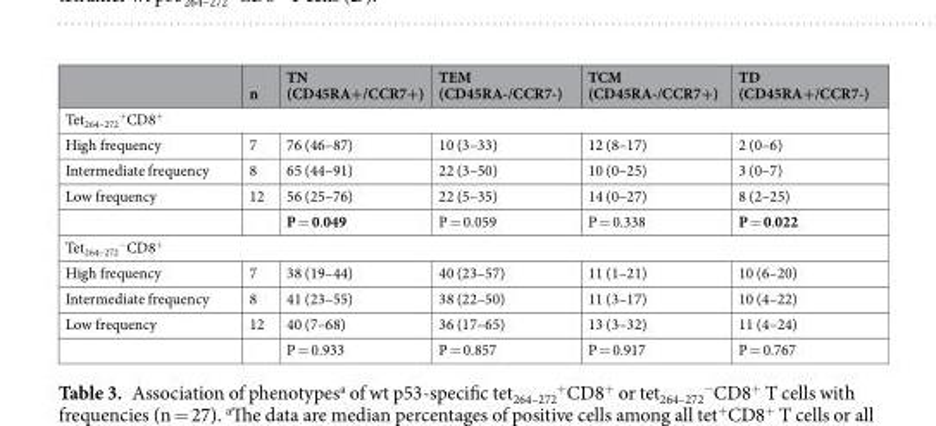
<table><thead><tr><td></td><td>n</td><td>TN (CD45RA+/CCR7+)</td><td>TEM (CD45RA-/CCR7-)</td><td>TCM (CD45RA-/CCR7+)</td><td>TD (CD45RA+/CCR7-)</td></tr></thead><tbody><tr><td colspan="6">Tet<sub>264–272</sub> <sup>+</sup>CD8<sup>+</sup></td></tr><tr><td>High frequency</td><td>7</td><td>76 (46–87)</td><td>10 (3–33)</td><td>12 (8–17)</td><td>2 (0–6)</td></tr><tr><td>Intermediate frequency</td><td>8</td><td>65 (44–91)</td><td>22 (3–50)</td><td>10 (0–25)</td><td>3 (0–7)</td></tr><tr><td rowspan="2">Low frequency</td><td>12</td><td>56 (25–76)</td><td>22 (5–35)</td><td>14 (0–27)</td><td>8 (2–25)</td></tr><tr><td></td><td>P = 0.049</td><td>P = 0.059</td><td>P = 0.338</td><td>P = 0.022</td></tr><tr><td colspan="6">Tet<sub>264–272</sub> <sup>−</sup>CD8<sup>+</sup></td></tr><tr><td>High frequency</td><td>7</td><td>38 (19–44)</td><td>40 (23–57)</td><td>11 (1–21)</td><td>10 (6–20)</td></tr><tr><td>Intermediate frequency</td><td>8</td><td>41 (23–55)</td><td>38 (22–50)</td><td>11 (3–17)</td><td>10 (4–22)</td></tr><tr><td rowspan="2">Low frequency</td><td>12</td><td>40 (7–68)</td><td>36 (17–65)</td><td>13 (3–32)</td><td>11 (4–24)</td></tr><tr><td></td><td>P = 0.933</td><td>P = 0.857</td><td>P = 0.917</td><td>P = 0.767</td></tr></tbody></table>